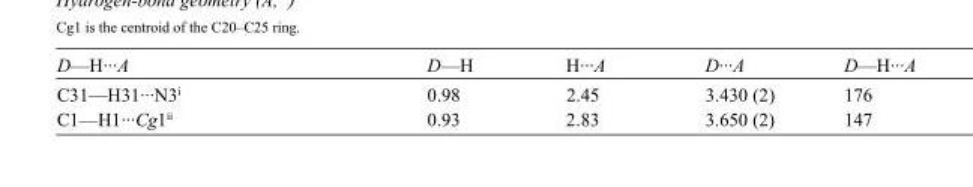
<table><tbody><tr><td>D—H···A</td><td>D—H</td><td>H···A</td><td>D···A</td><td>D—H···A</td></tr><tr><td>C31—H31···N3<sup>i</sup></td><td>0.98</td><td>2.45</td><td>3.430 (2)</td><td>176</td></tr><tr><td>C1—H1···Cg1<sup>ii</sup></td><td>0.93</td><td>2.83</td><td>3.650 (2)</td><td>147</td></tr></tbody></table>